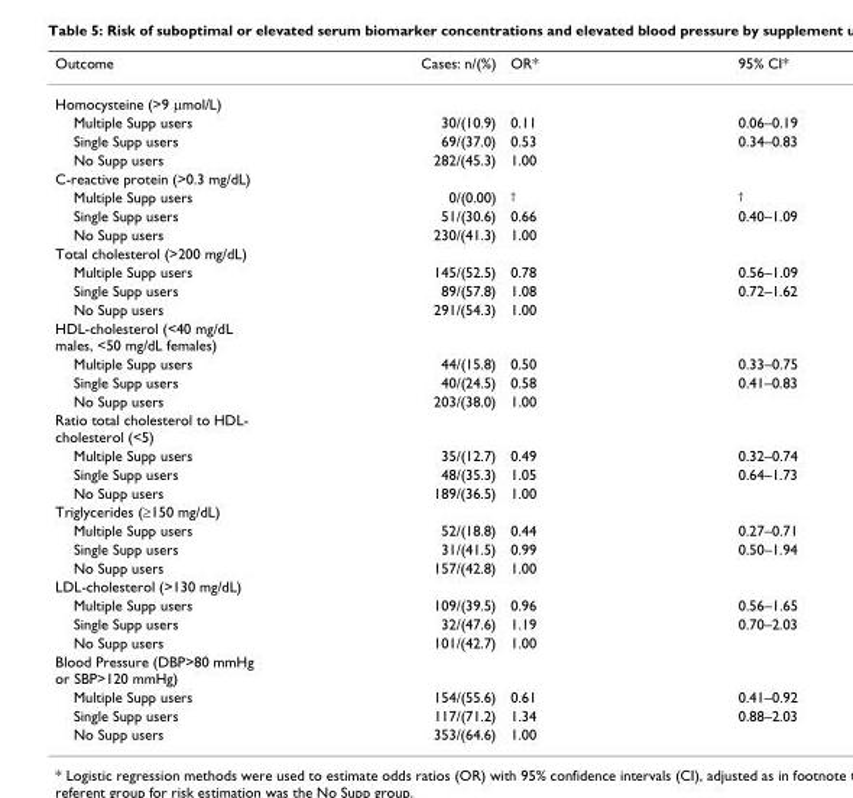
<table><thead><tr><td>Outcome</td><td>Cases: n/(%)</td><td>OR*</td><td>95% CI*</td></tr></thead><tbody><tr><td colspan="4">Homocysteine (&gt;9 µmol/L)</td></tr><tr><td>Multiple Supp users</td><td>30/(10.9)</td><td>0.11</td><td>0.06–0.19</td></tr><tr><td>Single Supp users</td><td>69/(37.0)</td><td>0.53</td><td>0.34–0.83</td></tr><tr><td>No Supp users</td><td>282/(45.3)</td><td>1.00</td><td></td></tr><tr><td colspan="4">C-reactive protein (&gt;0.3 mg/dL)</td></tr><tr><td>Multiple Supp users</td><td>0/(0.00)</td><td><sup>†</sup></td><td><sup>†</sup></td></tr><tr><td>Single Supp users</td><td>51/(30.6)</td><td>0.66</td><td>0.40–1.09</td></tr><tr><td>No Supp users</td><td>230/(41.3)</td><td>1.00</td><td></td></tr><tr><td colspan="4">Total cholesterol (&gt;200 mg/dL)</td></tr><tr><td>Multiple Supp users</td><td>145/(52.5)</td><td>0.78</td><td>0.56–1.09</td></tr><tr><td>Single Supp users</td><td>89/(57.8)</td><td>1.08</td><td>0.72–1.62</td></tr><tr><td>No Supp users</td><td>291/(54.3)</td><td>1.00</td><td></td></tr><tr><td colspan="4">HDL-cholesterol (&lt;40 mg/dL males, &lt;50 mg/dL females)</td></tr><tr><td>Multiple Supp users</td><td>44/(15.8)</td><td>0.50</td><td>0.33–0.75</td></tr><tr><td>Single Supp users</td><td>40/(24.5)</td><td>0.58</td><td>0.41–0.83</td></tr><tr><td>No Supp users</td><td>203/(38.0)</td><td>1.00</td><td></td></tr><tr><td colspan="4">Ratio total cholesterol to HDL- cholesterol (&lt;5)</td></tr><tr><td>Multiple Supp users</td><td>35/(12.7)</td><td>0.49</td><td>0.32–0.74</td></tr><tr><td>Single Supp users</td><td>48/(35.3)</td><td>1.05</td><td>0.64–1.73</td></tr><tr><td>No Supp users</td><td>189/(36.5)</td><td>1.00</td><td></td></tr><tr><td colspan="4">Triglycerides (≥150 mg/dL)</td></tr><tr><td>Multiple Supp users</td><td>52/(18.8)</td><td>0.44</td><td>0.27–0.71</td></tr><tr><td>Single Supp users</td><td>31/(41.5)</td><td>0.99</td><td>0.50–1.94</td></tr><tr><td>No Supp users</td><td>157/(42.8)</td><td>1.00</td><td></td></tr><tr><td colspan="4">LDL-cholesterol (&gt;130 mg/dL)</td></tr><tr><td>Multiple Supp users</td><td>109/(39.5)</td><td>0.96</td><td>0.56–1.65</td></tr><tr><td>Single Supp users</td><td>32/(47.6)</td><td>1.19</td><td>0.70–2.03</td></tr><tr><td>No Supp users</td><td>101/(42.7)</td><td>1.00</td><td></td></tr><tr><td colspan="4">Blood Pressure (DBP&gt;80 mmHg or SBP&gt;120 mmHg)</td></tr><tr><td>Multiple Supp users</td><td>154/(55.6)</td><td>0.61</td><td>0.41–0.92</td></tr><tr><td>Single Supp users</td><td>117/(71.2)</td><td>1.34</td><td>0.88–2.03</td></tr><tr><td>No Supp users</td><td>353/(64.6)</td><td>1.00</td><td></td></tr></tbody></table>